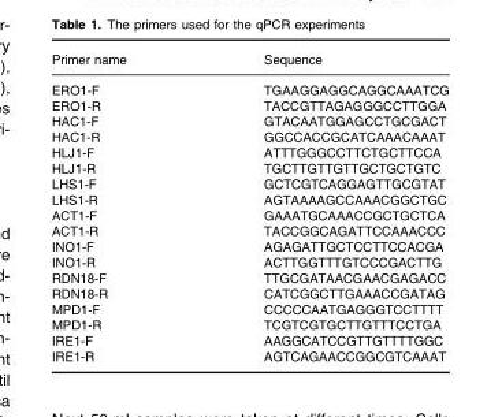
<table><thead><tr><td>Primer name</td><td>Sequence</td></tr></thead><tbody><tr><td>ERO1-F</td><td>TGAAGGAGGCAGGCAAATCG</td></tr><tr><td>ERO1-R</td><td>TACCGTTAGAGGGCCTTGGA</td></tr><tr><td>HAC1-F</td><td>GTACAATGGAGCCTGCGACT</td></tr><tr><td>HAC1-R</td><td>GGCCACCGCATCAAACAAAT</td></tr><tr><td>HLJ1-F</td><td>ATTTGGGCCTTCTGCTTCCA</td></tr><tr><td>HLJ1-R</td><td>TGCTTGTTGTTGCTGCTGTC</td></tr><tr><td>LHS1-F</td><td>GCTCGTCAGGAGTTGCGTAT</td></tr><tr><td>LHS1-R</td><td>AGTAAAAGCCAAACGGCTGC</td></tr><tr><td>ACT1-F</td><td>GAAATGCAAACCGCTGCTCA</td></tr><tr><td>ACT1-R</td><td>TACCGGCAGATTCCAAACCC</td></tr><tr><td>INO1-F</td><td>AGAGATTGCTCCTTCCACGA</td></tr><tr><td>INO1-R</td><td>ACTTGGTTTGTCCCGACTTG</td></tr><tr><td>RDN18-F</td><td>TTGCGATAACGAACGAGACC</td></tr><tr><td>RDN18-R</td><td>CATCGGCTTGAAACCGATAG</td></tr><tr><td>MPD1-F</td><td>CCCCCAATGAGGGTCCTTTT</td></tr><tr><td>MPD1-R</td><td>TCGTCGTGCTTGTTTCCTGA</td></tr><tr><td>IRE1-F</td><td>AAGGCATCCGTTGTTTTGGC</td></tr><tr><td>IRE1-R</td><td>AGTCAGAACCGGCGTCAAAT</td></tr></tbody></table>